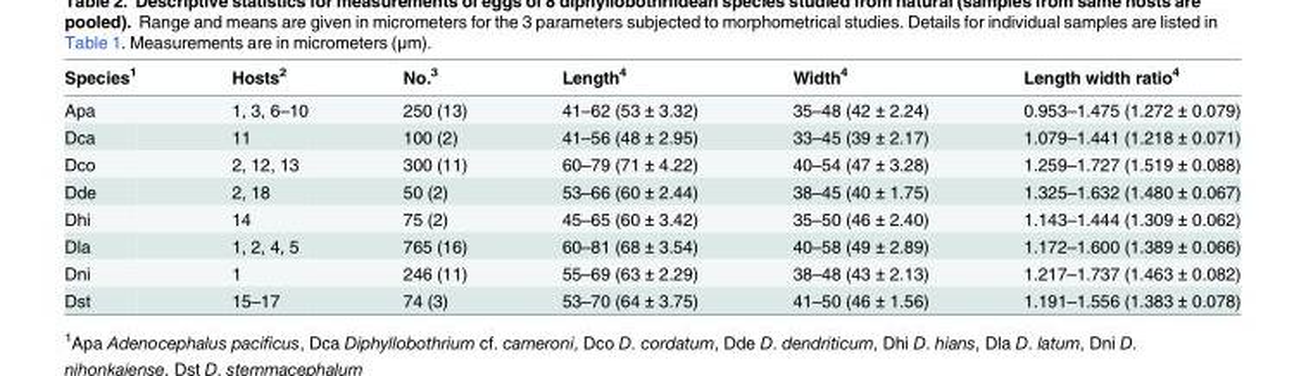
<table><thead><tr><td>Species<sup>1</sup></td><td>Hosts<sup>2</sup></td><td>No.<sup>3</sup></td><td>Length<sup>4</sup></td><td>Width<sup>4</sup></td><td>Length width ratio<sup>4</sup></td></tr></thead><tbody><tr><td>Apa</td><td>1, 3, 6–10</td><td>250 (13)</td><td>41–62 (53 ± 3.32)</td><td>35–48 (42 ± 2.24)</td><td>0.953–1.475 (1.272 ± 0.079)</td></tr><tr><td>Dca</td><td>11</td><td>100 (2)</td><td>41–56 (48 ± 2.95)</td><td>33–45 (39 ± 2.17)</td><td>1.079–1.441 (1.218 ± 0.071)</td></tr><tr><td>Dco</td><td>2, 12, 13</td><td>300 (11)</td><td>60–79 (71 ± 4.22)</td><td>40–54 (47 ± 3.28)</td><td>1.259–1.727 (1.519 ± 0.088)</td></tr><tr><td>Dde</td><td>2, 18</td><td>50 (2)</td><td>53–66 (60 ± 2.44)</td><td>38–45 (40 ± 1.75)</td><td>1.325–1.632 (1.480 ± 0.067)</td></tr><tr><td>Dhi</td><td>14</td><td>75 (2)</td><td>45–65 (60 ± 3.42)</td><td>35–50 (46 ± 2.40)</td><td>1.143–1.444 (1.309 ± 0.062)</td></tr><tr><td>Dla</td><td>1, 2, 4, 5</td><td>765 (16)</td><td>60–81 (68 ± 3.54)</td><td>40–58 (49 ± 2.89)</td><td>1.172–1.600 (1.389 ± 0.066)</td></tr><tr><td>Dni</td><td>1</td><td>246 (11)</td><td>55–69 (63 ± 2.29)</td><td>38–48 (43 ± 2.13)</td><td>1.217–1.737 (1.463 ± 0.082)</td></tr><tr><td>Dst</td><td>15–17</td><td>74 (3)</td><td>53–70 (64 ± 3.75)</td><td>41–50 (46 ± 1.56)</td><td>1.191–1.556 (1.383 ± 0.078)</td></tr></tbody></table>